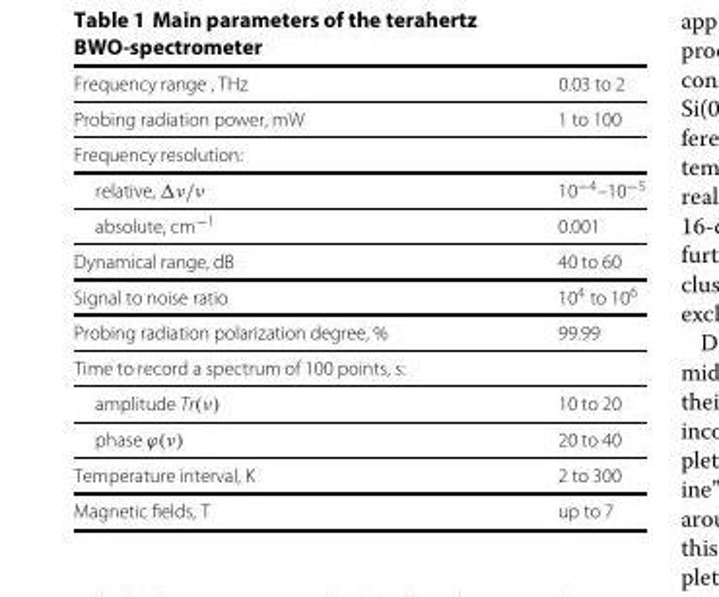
<table><thead><tr><td>Frequency range , THz</td><td>0.03 to 2</td></tr></thead><tbody><tr><td>Probing radiation power, mW</td><td>1 to 100</td></tr><tr><td colspan="2">Frequency resolution:</td></tr><tr><td>relative, Δν/ν</td><td>10<sup>−4</sup>–10<sup>−5</sup></td></tr><tr><td>absolute, cm<sup>−1</sup></td><td>0.001</td></tr><tr><td>Dynamical range, dB</td><td>40 to 60</td></tr><tr><td>Signal to noise ratio</td><td>10<sup>4</sup> to 10<sup>6</sup></td></tr><tr><td>Probing radiation polarization degree, %</td><td>99.99</td></tr><tr><td colspan="2">Time to record a spectrum of 100 points, s:</td></tr><tr><td>amplitude Tr(ν)</td><td>10 to 20</td></tr><tr><td>phase ϕ(ν)</td><td>20 to 40</td></tr><tr><td>Temperature interval, K</td><td>2 to 300</td></tr><tr><td>Magnetic fields, T</td><td>up to 7</td></tr></tbody></table>